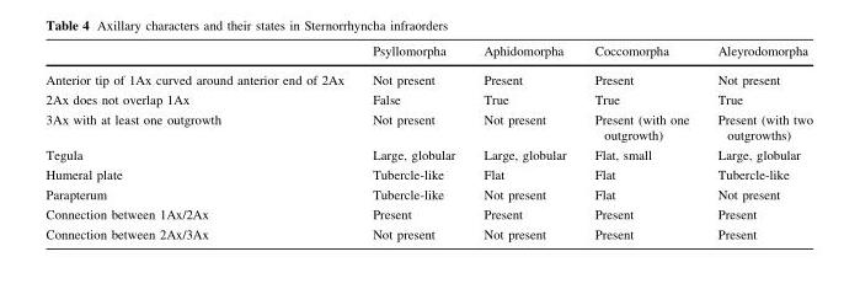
<table><thead><tr><td></td><td>Psyllomorpha</td><td>Aphidomorpha</td><td>Coccomorpha</td><td>Aleyrodomorpha</td></tr></thead><tbody><tr><td>Anterior tip of 1Ax curved around anterior end of 2Ax</td><td>Not present</td><td>Present</td><td>Present</td><td>Not present</td></tr><tr><td>2Ax does not overlap 1Ax</td><td>False</td><td>True</td><td>True</td><td>True</td></tr><tr><td>3Ax with at least one outgrowth</td><td>Not present</td><td>Not present</td><td>Present (with one outgrowth)</td><td>Present (with two outgrowths)</td></tr><tr><td>Tegula</td><td>Large, globular</td><td>Large, globular</td><td>Flat, small</td><td>Large, globular</td></tr><tr><td>Humeral plate</td><td>Tubercle-like</td><td>Flat</td><td>Flat</td><td>Tubercle-like</td></tr><tr><td>Parapterum</td><td>Tubercle-like</td><td>Not present</td><td>Flat</td><td>Not present</td></tr><tr><td>Connection between 1Ax/2Ax</td><td>Present</td><td>Present</td><td>Present</td><td>Present</td></tr><tr><td>Connection between 2Ax/3Ax</td><td>Not present</td><td>Not present</td><td>Present</td><td>Present</td></tr></tbody></table>